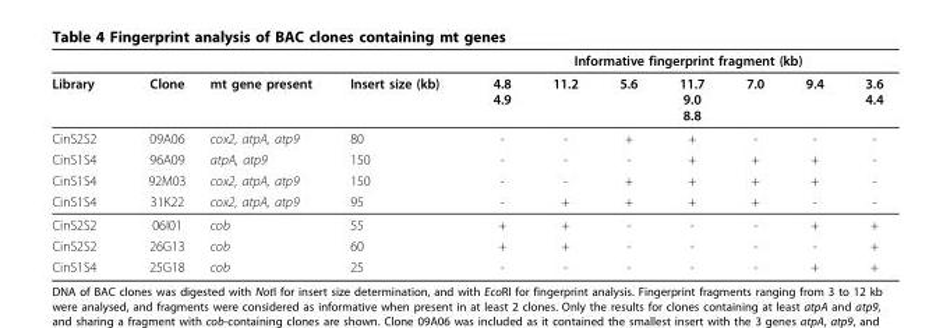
<table><thead><tr><td rowspan="2">Library</td><td rowspan="2">Clone</td><td rowspan="2">mt gene present</td><td rowspan="2">Insert size (kb)</td><td colspan="7">Informative fingerprint fragment (kb)</td></tr><tr><td>4.8 4.9</td><td>11.2</td><td>5.6</td><td>11.7 9.0 8.8</td><td>7.0</td><td>9.4</td><td>3.6 4.4</td></tr></thead><tbody><tr><td>CinS2S2</td><td>09A06</td><td>cox2, atpA, atp9</td><td>80</td><td>-</td><td>-</td><td>+</td><td>+</td><td>-</td><td>-</td><td>-</td></tr><tr><td>CinS1S4</td><td>96A09</td><td>atpA, atp9</td><td>150</td><td>-</td><td>-</td><td>-</td><td>+</td><td>+</td><td>+</td><td>-</td></tr><tr><td>CinS1S4</td><td>92M03</td><td>cox2, atpA, atp9</td><td>150</td><td>-</td><td>-</td><td>+</td><td>+</td><td>+</td><td>+</td><td>-</td></tr><tr><td>CinS1S4</td><td>31K22</td><td>cox2, atpA, atp9</td><td>95</td><td>-</td><td>+</td><td>+</td><td>+</td><td>+</td><td>-</td><td>-</td></tr><tr><td>CinS2S2</td><td>06I01</td><td>cob</td><td>55</td><td>+</td><td>+</td><td>-</td><td>-</td><td>-</td><td>+</td><td>+</td></tr><tr><td>CinS2S2</td><td>26G13</td><td>cob</td><td>60</td><td>+</td><td>+</td><td>-</td><td>-</td><td>-</td><td>-</td><td>+</td></tr><tr><td>CinS1S4</td><td>25G18</td><td>cob</td><td>25</td><td>-</td><td>-</td><td>-</td><td>-</td><td>-</td><td>+</td><td>+</td></tr></tbody></table>